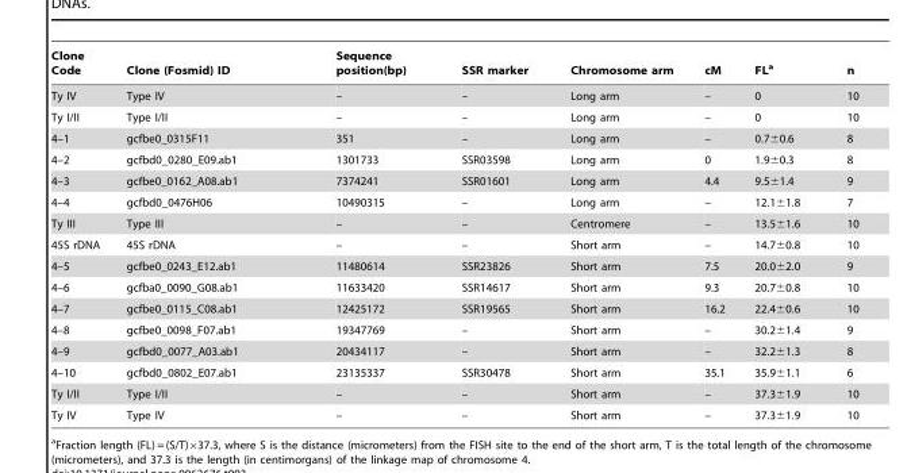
<table><thead><tr><td>Clone Code</td><td>Clone (Fosmid) ID</td><td>Sequence position(bp)</td><td>SSR marker</td><td>Chromosome arm</td><td>cM</td><td>FL<sup>a</sup></td><td>n</td></tr></thead><tbody><tr><td>Ty IV</td><td>Type IV</td><td>–</td><td>–</td><td>Long arm</td><td>–</td><td>0</td><td>10</td></tr><tr><td>Ty I/II</td><td>Type I/II</td><td>–</td><td>–</td><td>Long arm</td><td>–</td><td>0</td><td>10</td></tr><tr><td>4–1</td><td>gcfbe0_0315F11</td><td>351</td><td>–</td><td>Long arm</td><td>–</td><td>0.7±0.6</td><td>8</td></tr><tr><td>4–2</td><td>gcfbd0_0280_E09.ab1</td><td>1301733</td><td>SSR03598</td><td>Long arm</td><td>0</td><td>1.9±0.3</td><td>8</td></tr><tr><td>4–3</td><td>gcfbe0_0162_A08.ab1</td><td>7374241</td><td>SSR01601</td><td>Long arm</td><td>4.4</td><td>9.5±1.4</td><td>9</td></tr><tr><td>4–4</td><td>gcfbd0_0476H06</td><td>10490315</td><td>–</td><td>Long arm</td><td>–</td><td>12.1±1.8</td><td>7</td></tr><tr><td>Ty III</td><td>Type III</td><td>–</td><td>–</td><td>Centromere</td><td>–</td><td>13.5±1.6</td><td>10</td></tr><tr><td>45S rDNA</td><td>45S rDNA</td><td>–</td><td>–</td><td>Short arm</td><td>–</td><td>14.7±0.8</td><td>10</td></tr><tr><td>4–5</td><td>gcfbe0_0243_E12.ab1</td><td>11480614</td><td>SSR23826</td><td>Short arm</td><td>7.5</td><td>20.0±2.0</td><td>9</td></tr><tr><td>4–6</td><td>gcfba0_0090_G08.ab1</td><td>11633420</td><td>SSR14617</td><td>Short arm</td><td>9.3</td><td>20.7±0.8</td><td>10</td></tr><tr><td>4–7</td><td>gcfbe0_0115_C08.ab1</td><td>12425172</td><td>SSR19565</td><td>Short arm</td><td>16.2</td><td>22.4±0.6</td><td>10</td></tr><tr><td>4–8</td><td>gcfbe0_0098_F07.ab1</td><td>19347769</td><td>–</td><td>Short arm</td><td>–</td><td>30.2±1.4</td><td>9</td></tr><tr><td>4–9</td><td>gcfbd0_0077_A03.ab1</td><td>20434117</td><td>–</td><td>Short arm</td><td>–</td><td>32.2±1.3</td><td>8</td></tr><tr><td>4–10</td><td>gcfbd0_0802_E07.ab1</td><td>23135337</td><td>SSR30478</td><td>Short arm</td><td>35.1</td><td>35.9±1.1</td><td>6</td></tr><tr><td>Ty I/II</td><td>Type I/II</td><td>–</td><td>–</td><td>Short arm</td><td>–</td><td>37.3±1.9</td><td>10</td></tr><tr><td>Ty IV</td><td>Type IV</td><td>–</td><td>–</td><td>Short arm</td><td>–</td><td>37.3±1.9</td><td>10</td></tr></tbody></table>